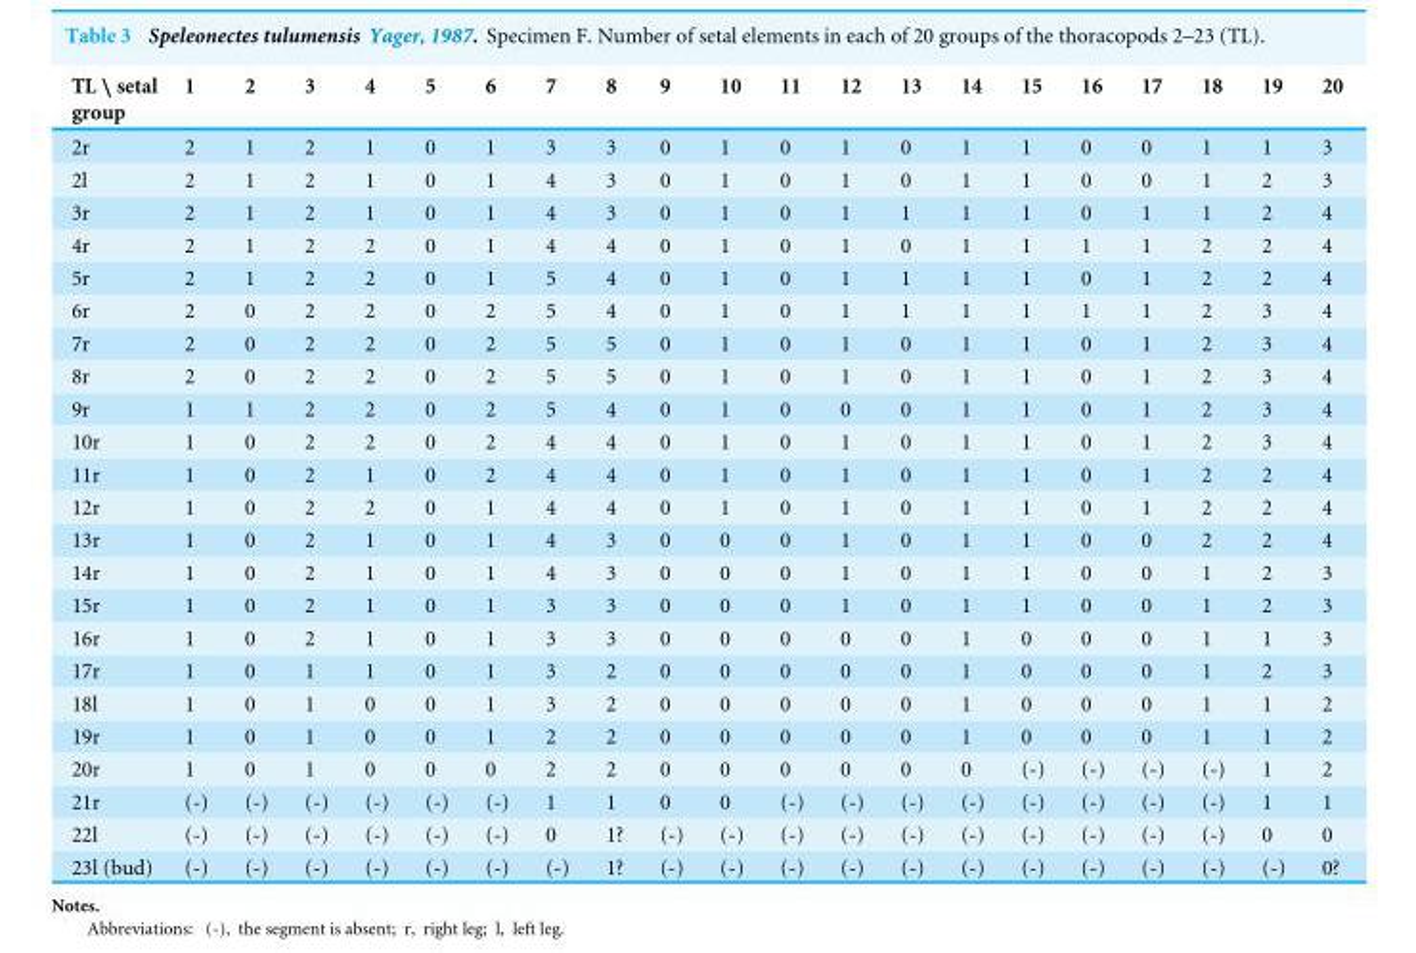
<table><thead><tr><td>TL \ setal group</td><td>1</td><td>2</td><td>3</td><td>4</td><td>5</td><td>6</td><td>7</td><td>8</td><td>9</td><td>10</td><td>11</td><td>12</td><td>13</td><td>14</td><td>15</td><td>16</td><td>17</td><td>18</td><td>19</td><td>20</td></tr></thead><tbody><tr><td>2r</td><td>2</td><td>1</td><td>2</td><td>1</td><td>0</td><td>1</td><td>3</td><td>3</td><td>0</td><td>1</td><td>0</td><td>1</td><td>0</td><td>1</td><td>1</td><td>0</td><td>0</td><td>1</td><td>1</td><td>3</td></tr><tr><td>2l</td><td>2</td><td>1</td><td>2</td><td>1</td><td>0</td><td>1</td><td>4</td><td>3</td><td>0</td><td>1</td><td>0</td><td>1</td><td>0</td><td>1</td><td>1</td><td>0</td><td>0</td><td>1</td><td>2</td><td>3</td></tr><tr><td>3r</td><td>2</td><td>1</td><td>2</td><td>1</td><td>0</td><td>1</td><td>4</td><td>3</td><td>0</td><td>1</td><td>0</td><td>1</td><td>1</td><td>1</td><td>1</td><td>0</td><td>1</td><td>1</td><td>2</td><td>4</td></tr><tr><td>4r</td><td>2</td><td>1</td><td>2</td><td>2</td><td>0</td><td>1</td><td>4</td><td>4</td><td>0</td><td>1</td><td>0</td><td>1</td><td>0</td><td>1</td><td>1</td><td>1</td><td>1</td><td>2</td><td>2</td><td>4</td></tr><tr><td>5r</td><td>2</td><td>1</td><td>2</td><td>2</td><td>0</td><td>1</td><td>5</td><td>4</td><td>0</td><td>1</td><td>0</td><td>1</td><td>1</td><td>1</td><td>1</td><td>0</td><td>1</td><td>2</td><td>2</td><td>4</td></tr><tr><td>6r</td><td>2</td><td>0</td><td>2</td><td>2</td><td>0</td><td>2</td><td>5</td><td>4</td><td>0</td><td>1</td><td>0</td><td>1</td><td>1</td><td>1</td><td>1</td><td>1</td><td>1</td><td>2</td><td>3</td><td>4</td></tr><tr><td>7r</td><td>2</td><td>0</td><td>2</td><td>2</td><td>0</td><td>2</td><td>5</td><td>5</td><td>0</td><td>1</td><td>0</td><td>1</td><td>0</td><td>1</td><td>1</td><td>0</td><td>1</td><td>2</td><td>3</td><td>4</td></tr><tr><td>8r</td><td>2</td><td>0</td><td>2</td><td>2</td><td>0</td><td>2</td><td>5</td><td>5</td><td>0</td><td>1</td><td>0</td><td>1</td><td>0</td><td>1</td><td>1</td><td>0</td><td>1</td><td>2</td><td>3</td><td>4</td></tr><tr><td>9r</td><td>1</td><td>1</td><td>2</td><td>2</td><td>0</td><td>2</td><td>5</td><td>4</td><td>0</td><td>1</td><td>0</td><td>0</td><td>0</td><td>1</td><td>1</td><td>0</td><td>1</td><td>2</td><td>3</td><td>4</td></tr><tr><td>10r</td><td>1</td><td>0</td><td>2</td><td>2</td><td>0</td><td>2</td><td>4</td><td>4</td><td>0</td><td>1</td><td>0</td><td>1</td><td>0</td><td>1</td><td>1</td><td>0</td><td>1</td><td>2</td><td>3</td><td>4</td></tr><tr><td>11r</td><td>1</td><td>0</td><td>2</td><td>1</td><td>0</td><td>2</td><td>4</td><td>4</td><td>0</td><td>1</td><td>0</td><td>1</td><td>0</td><td>1</td><td>1</td><td>0</td><td>1</td><td>2</td><td>2</td><td>4</td></tr><tr><td>12r</td><td>1</td><td>0</td><td>2</td><td>2</td><td>0</td><td>1</td><td>4</td><td>4</td><td>0</td><td>1</td><td>0</td><td>1</td><td>0</td><td>1</td><td>1</td><td>0</td><td>1</td><td>2</td><td>2</td><td>4</td></tr><tr><td>13r</td><td>1</td><td>0</td><td>2</td><td>1</td><td>0</td><td>1</td><td>4</td><td>3</td><td>0</td><td>0</td><td>0</td><td>1</td><td>0</td><td>1</td><td>1</td><td>0</td><td>0</td><td>2</td><td>2</td><td>4</td></tr><tr><td>14r</td><td>1</td><td>0</td><td>2</td><td>1</td><td>0</td><td>1</td><td>4</td><td>3</td><td>0</td><td>0</td><td>0</td><td>1</td><td>0</td><td>1</td><td>1</td><td>0</td><td>0</td><td>1</td><td>2</td><td>3</td></tr><tr><td>15r</td><td>1</td><td>0</td><td>2</td><td>1</td><td>0</td><td>1</td><td>3</td><td>3</td><td>0</td><td>0</td><td>0</td><td>1</td><td>0</td><td>1</td><td>1</td><td>0</td><td>0</td><td>1</td><td>2</td><td>3</td></tr><tr><td>16r</td><td>1</td><td>0</td><td>2</td><td>1</td><td>0</td><td>1</td><td>3</td><td>3</td><td>0</td><td>0</td><td>0</td><td>0</td><td>0</td><td>1</td><td>0</td><td>0</td><td>0</td><td>1</td><td>1</td><td>3</td></tr><tr><td>17r</td><td>1</td><td>0</td><td>1</td><td>1</td><td>0</td><td>1</td><td>3</td><td>2</td><td>0</td><td>0</td><td>0</td><td>0</td><td>0</td><td>1</td><td>0</td><td>0</td><td>0</td><td>1</td><td>2</td><td>3</td></tr><tr><td>18l</td><td>1</td><td>0</td><td>1</td><td>0</td><td>0</td><td>1</td><td>3</td><td>2</td><td>0</td><td>0</td><td>0</td><td>0</td><td>0</td><td>1</td><td>0</td><td>0</td><td>0</td><td>1</td><td>1</td><td>2</td></tr><tr><td>19r</td><td>1</td><td>0</td><td>1</td><td>0</td><td>0</td><td>1</td><td>2</td><td>2</td><td>0</td><td>0</td><td>0</td><td>0</td><td>0</td><td>1</td><td>0</td><td>0</td><td>0</td><td>1</td><td>1</td><td>2</td></tr><tr><td>20r</td><td>1</td><td>0</td><td>1</td><td>0</td><td>0</td><td>0</td><td>2</td><td>2</td><td>0</td><td>0</td><td>0</td><td>0</td><td>0</td><td>0</td><td>(-)</td><td>(-)</td><td>(-)</td><td>(-)</td><td>1</td><td>2</td></tr><tr><td>21r</td><td>(-)</td><td>(-)</td><td>(-)</td><td>(-)</td><td>(-)</td><td>(-)</td><td>1</td><td>1</td><td>0</td><td>0</td><td>(-)</td><td>(-)</td><td>(-)</td><td>(-)</td><td>(-)</td><td>(-)</td><td>(-)</td><td>(-)</td><td>1</td><td>1</td></tr><tr><td>22l</td><td>(-)</td><td>(-)</td><td>(-)</td><td>(-)</td><td>(-)</td><td>(-)</td><td>0</td><td>1?</td><td>(-)</td><td>(-)</td><td>(-)</td><td>(-)</td><td>(-)</td><td>(-)</td><td>(-)</td><td>(-)</td><td>(-)</td><td>(-)</td><td>0</td><td>0</td></tr><tr><td>23l (bud)</td><td>(-)</td><td>(-)</td><td>(-)</td><td>(-)</td><td>(-)</td><td>(-)</td><td>(-)</td><td>1?</td><td>(-)</td><td>(-)</td><td>(-)</td><td>(-)</td><td>(-)</td><td>(-)</td><td>(-)</td><td>(-)</td><td>(-)</td><td>(-)</td><td>(-)</td><td>0?</td></tr></tbody></table>